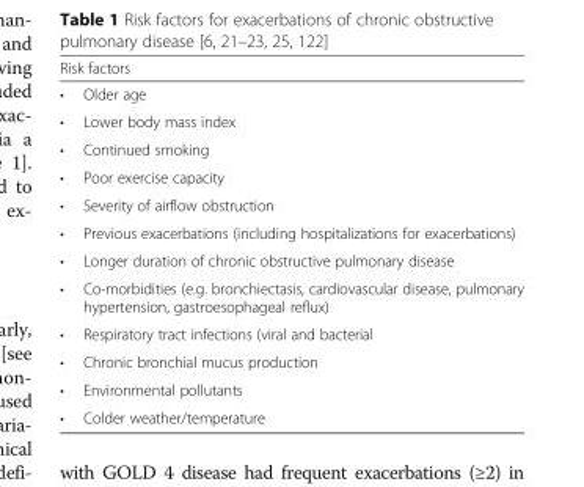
<table><thead><tr><td colspan="2">Risk factors</td></tr><tr><td>•</td><td>Older age</td></tr></thead><tbody><tr><td>•</td><td>Lower body mass index</td></tr><tr><td>•</td><td>Continued smoking</td></tr><tr><td>•</td><td>Poor exercise capacity</td></tr><tr><td>•</td><td>Severity of airflow obstruction</td></tr><tr><td>•</td><td>Previous exacerbations (including hospitalizations for exacerbations)</td></tr><tr><td>•</td><td>Longer duration of chronic obstructive pulmonary disease</td></tr><tr><td>•</td><td>Co-morbidities (e.g. bronchiectasis, cardiovascular disease, pulmonary hypertension, gastroesophageal reflux)</td></tr><tr><td>•</td><td>Respiratory tract infections (viral and bacterial</td></tr><tr><td>•</td><td>Chronic bronchial mucus production</td></tr><tr><td>•</td><td>Environmental pollutants</td></tr><tr><td>•</td><td>Colder weather/temperature</td></tr></tbody></table>